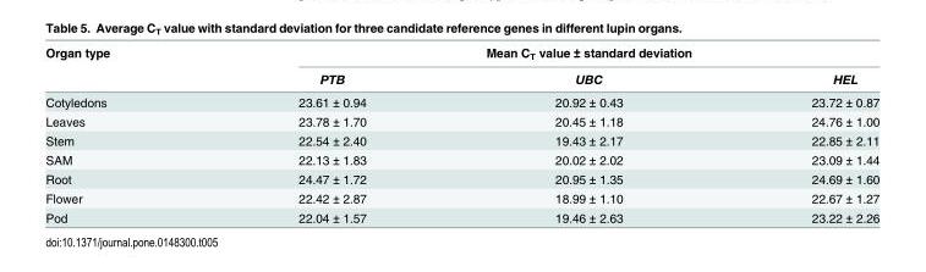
<table><thead><tr><td rowspan="2">Organ type</td><td colspan="3">Mean C<sub>T</sub> value ± standard deviation</td></tr><tr><td>PTB</td><td>UBC</td><td>HEL</td></tr></thead><tbody><tr><td>Cotyledons</td><td>23.61 ± 0.94</td><td>20.92 ± 0.43</td><td>23.72 ± 0.87</td></tr><tr><td>Leaves</td><td>23.78 ± 1.70</td><td>20.45 ± 1.18</td><td>24.76 ± 1.00</td></tr><tr><td>Stem</td><td>22.54 ± 2.40</td><td>19.43 ± 2.17</td><td>22.85 ± 2.11</td></tr><tr><td>SAM</td><td>22.13 ± 1.83</td><td>20.02 ± 2.02</td><td>23.09 ± 1.44</td></tr><tr><td>Root</td><td>24.47 ± 1.72</td><td>20.95 ± 1.35</td><td>24.69 ± 1.60</td></tr><tr><td>Flower</td><td>22.42 ± 2.87</td><td>18.99 ± 1.10</td><td>22.67 ± 1.27</td></tr><tr><td>Pod</td><td>22.04 ± 1.57</td><td>19.46 ± 2.63</td><td>23.22 ± 2.26</td></tr></tbody></table>